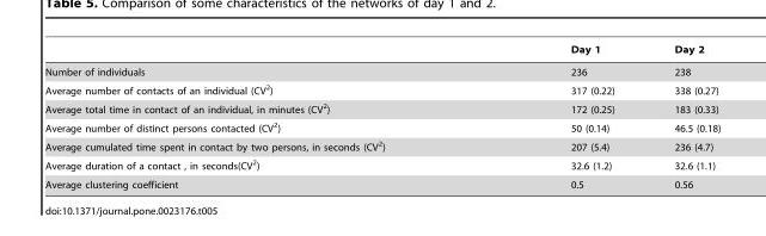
<table><thead><tr><td></td><td>Day 1</td><td>Day 2</td></tr></thead><tbody><tr><td>Number of individuals</td><td>236</td><td>238</td></tr><tr><td>Average number of contacts of an individual (CV<sup>2</sup>)</td><td>317 (0.22)</td><td>338 (0.27)</td></tr><tr><td>Average total time in contact of an individual, in minutes (CV<sup>2</sup>)</td><td>172 (0.25)</td><td>183 (0.33)</td></tr><tr><td>Average number of distinct persons contacted (CV<sup>2</sup>)</td><td>50 (0.14)</td><td>46.5 (0.18)</td></tr><tr><td>Average cumulated time spent in contact by two persons, in seconds (CV<sup>2</sup>)</td><td>207 (5.4)</td><td>236 (4.7)</td></tr><tr><td>Average duration of a contact , in seconds(CV<sup>2</sup>)</td><td>32.6 (1.2)</td><td>32.6 (1.1)</td></tr><tr><td>Average clustering coefficient</td><td>0.5</td><td>0.56</td></tr></tbody></table>